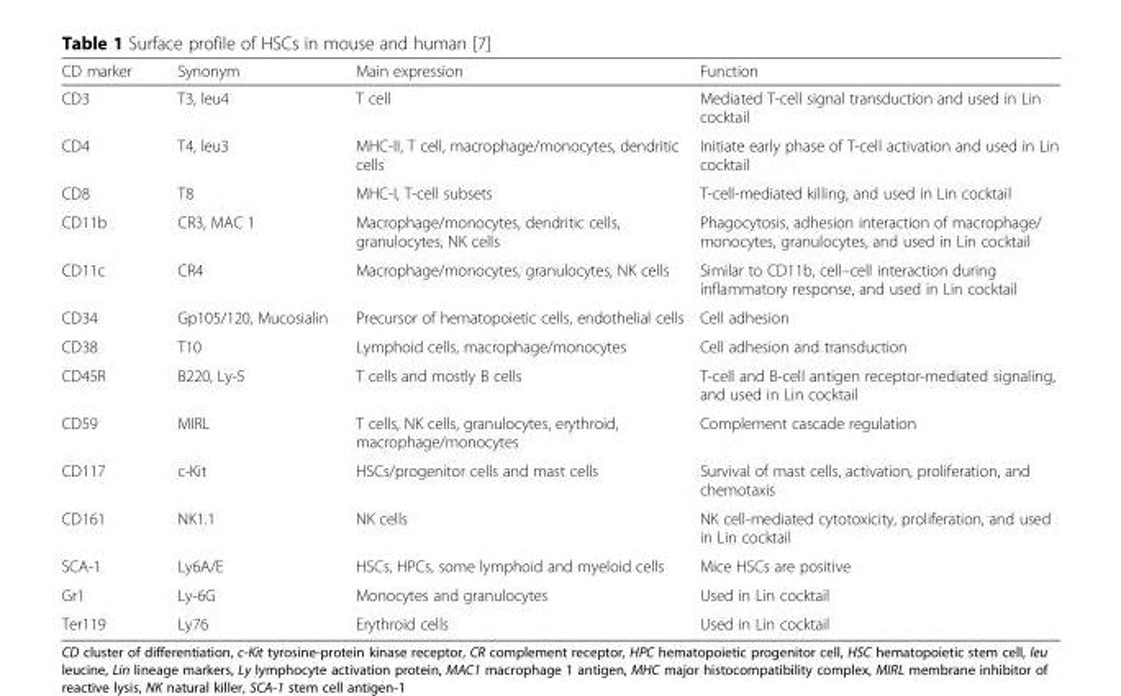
<table><thead><tr><td>CD marker</td><td>Synonym</td><td>Main expression</td><td>Function</td></tr></thead><tbody><tr><td>CD3</td><td>T3, leu4</td><td>T cell</td><td>Mediated T-cell signal transduction and used in Lin cocktail</td></tr><tr><td>CD4</td><td>T4, leu3</td><td>MHC-II, T cell, macrophage/monocytes, dendritic cells</td><td>Initiate early phase of T-cell activation and used in Lin cocktail</td></tr><tr><td>CD8</td><td>T8</td><td>MHC-I, T-cell subsets</td><td>T-cell-mediated killing, and used in Lin cocktail</td></tr><tr><td>CD11b</td><td>CR3, MAC 1</td><td>Macrophage/monocytes, dendritic cells, granulocytes, NK cells</td><td>Phagocytosis, adhesion interaction of macrophage/ monocytes, granulocytes, and used in Lin cocktail</td></tr><tr><td>CD11c</td><td>CR4</td><td>Macrophage/monocytes, granulocytes, NK cells</td><td>Similar to CD11b, cell–cell interaction during inflammatory response, and used in Lin cocktail</td></tr><tr><td>CD34</td><td>Gp105/120, Mucosialin</td><td>Precursor of hematopoietic cells, endothelial cells</td><td>Cell adhesion</td></tr><tr><td>CD38</td><td>T10</td><td>Lymphoid cells, macrophage/monocytes</td><td>Cell adhesion and transduction</td></tr><tr><td>CD45R</td><td>B220, Ly-5</td><td>T cells and mostly B cells</td><td>T-cell and B-cell antigen receptor-mediated signaling, and used in Lin cocktail</td></tr><tr><td>CD59</td><td>MIRL</td><td>T cells, NK cells, granulocytes, erythroid, macrophage/monocytes</td><td>Complement cascade regulation</td></tr><tr><td>CD117</td><td>c-Kit</td><td>HSCs/progenitor cells and mast cells</td><td>Survival of mast cells, activation, proliferation, and chemotaxis</td></tr><tr><td>CD161</td><td>NK1.1</td><td>NK cells</td><td>NK cell-mediated cytotoxicity, proliferation, and used in Lin cocktail</td></tr><tr><td>SCA-1</td><td>Ly6A/E</td><td>HSCs, HPCs, some lymphoid and myeloid cells</td><td>Mice HSCs are positive</td></tr><tr><td>Gr1</td><td>Ly-6G</td><td>Monocytes and granulocytes</td><td>Used in Lin cocktail</td></tr><tr><td>Ter119</td><td>Ly76</td><td>Erythroid cells</td><td>Used in Lin cocktail</td></tr></tbody></table>